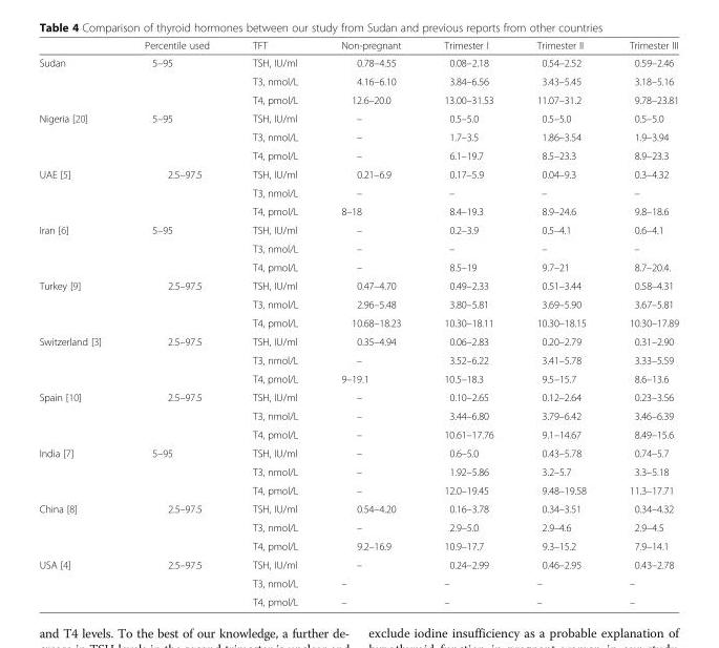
<table><thead><tr><td></td><td>Percentile used</td><td>TFT</td><td>Non-pregnant</td><td>Trimester I</td><td>Trimester II</td><td>Trimester III</td></tr></thead><tbody><tr><td rowspan="3">Sudan</td><td rowspan="3">5–95</td><td>TSH, IU/ml</td><td>0.78–4.55</td><td>0.08–2.18</td><td>0.54–2.52</td><td>0.59–2.46</td></tr><tr><td>T3, nmol/L</td><td>4.16–6.10</td><td>3.84–6.56</td><td>3.43–5.45</td><td>3.18–5.16</td></tr><tr><td>T4, pmol/L</td><td>12.6–20.0</td><td>13.00–31.53</td><td>11.07–31.2</td><td>9.78–23.81</td></tr><tr><td rowspan="3">Nigeria [20]</td><td rowspan="3">5–95</td><td>TSH, IU/ml</td><td>–</td><td>0.5–5.0</td><td>0.5–5.0</td><td>0.5–5.0</td></tr><tr><td>T3, nmol/L</td><td>–</td><td>1.7–3.5</td><td>1.86–3.54</td><td>1.9–3.94</td></tr><tr><td>T4, pmol/L</td><td>–</td><td>6.1–19.7</td><td>8.5–23.3</td><td>8.9–23.3</td></tr><tr><td rowspan="3">UAE [5]</td><td rowspan="3">2.5–97.5</td><td>TSH, IU/ml</td><td>0.21–6.9</td><td>0.17–5.9</td><td>0.04–9.3</td><td>0.3–4.32</td></tr><tr><td>T3, nmol/L</td><td>–</td><td>–</td><td>–</td><td>–</td></tr><tr><td>T4, pmol/L</td><td>8–18</td><td>8.4–19.3</td><td>8.9–24.6</td><td>9.8–18.6</td></tr><tr><td rowspan="3">Iran [6]</td><td rowspan="3">5–95</td><td>TSH, IU/ml</td><td>–</td><td>0.2–3.9</td><td>0.5–4.1</td><td>0.6–4.1</td></tr><tr><td>T3, nmol/L</td><td>–</td><td>–</td><td>–</td><td>–</td></tr><tr><td>T4, pmol/L</td><td>–</td><td>8.5–19</td><td>9.7–21</td><td>8.7–20.4.</td></tr><tr><td rowspan="3">Turkey [9]</td><td rowspan="3">2.5–97.5</td><td>TSH, IU/ml</td><td>0.47–4.70</td><td>0.49–2.33</td><td>0.51–3.44</td><td>0.58–4.31</td></tr><tr><td>T3, nmol/L</td><td>2.96–5.48</td><td>3.80–5.81</td><td>3.69–5.90</td><td>3.67–5.81</td></tr><tr><td>T4, pmol/L</td><td>10.68–18.23</td><td>10.30–18.11</td><td>10.30–18.15</td><td>10.30–17.89</td></tr><tr><td rowspan="3">Switzerland [3]</td><td rowspan="3">2.5–97.5</td><td>TSH, IU/ml</td><td>0.35–4.94</td><td>0.06–2.83</td><td>0.20–2.79</td><td>0.31–2.90</td></tr><tr><td>T3, nmol/L</td><td>–</td><td>3.52–6.22</td><td>3.41–5.78</td><td>3.33–5.59</td></tr><tr><td>T4, pmol/L</td><td>9–19.1</td><td>10.5–18.3</td><td>9.5–15.7</td><td>8.6–13.6</td></tr><tr><td rowspan="3">Spain [10]</td><td rowspan="3">2.5–97.5</td><td>TSH, IU/ml</td><td>–</td><td>0.10–2.65</td><td>0.12–2.64</td><td>0.23–3.56</td></tr><tr><td>T3, nmol/L</td><td>–</td><td>3.44–6.80</td><td>3.79–6.42</td><td>3.46–6.39</td></tr><tr><td>T4, pmol/L</td><td>–</td><td>10.61–17.76</td><td>9.1–14.67</td><td>8.49–15.6</td></tr><tr><td rowspan="3">India [7]</td><td rowspan="3">5–95</td><td>TSH, IU/ml</td><td>–</td><td>0.6–5.0</td><td>0.43–5.78</td><td>0.74–5.7</td></tr><tr><td>T3, nmol/L</td><td>–</td><td>1.92–5.86</td><td>3.2–5.7</td><td>3.3–5.18</td></tr><tr><td>T4, pmol/L</td><td>–</td><td>12.0–19.45</td><td>9.48–19.58</td><td>11.3–17.71</td></tr><tr><td rowspan="3">China [8]</td><td rowspan="3">2.5–97.5</td><td>TSH, IU/ml</td><td>0.54–4.20</td><td>0.16–3.78</td><td>0.34–3.51</td><td>0.34–4.32</td></tr><tr><td>T3, nmol/L</td><td>–</td><td>2.9–5.0</td><td>2.9–4.6</td><td>2.9–4.5</td></tr><tr><td>T4, pmol/L</td><td>9.2–16.9</td><td>10.9–17.7</td><td>9.3–15.2</td><td>7.9–14.1</td></tr><tr><td rowspan="3">USA [4]</td><td rowspan="3">2.5–97.5</td><td>TSH, IU/ml</td><td>–</td><td>0.24–2.99</td><td>0.46–2.95</td><td>0.43–2.78</td></tr><tr><td>T3, nmol/L</td><td>–</td><td>–</td><td>–</td><td>–</td></tr><tr><td>T4, pmol/L</td><td>–</td><td>–</td><td>–</td><td>–</td></tr></tbody></table>